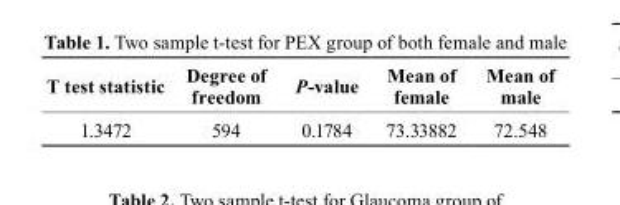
<table><thead><tr><td>test statistic</td><td>Degree of freedom</td><td>P-value</td><td>Mean of female</td><td>Mean of male</td></tr></thead><tbody><tr><td>1.3472</td><td>594</td><td>0.1784</td><td>73.33882</td><td>72.548</td></tr></tbody></table>